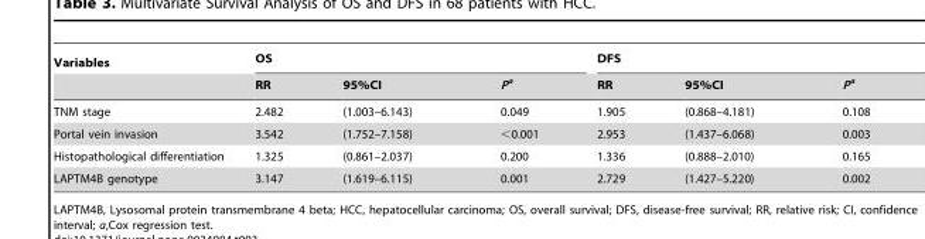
<table><thead><tr><td rowspan="2">Variables</td><td colspan="3">OS</td><td colspan="3">DFS</td></tr><tr><td>RR</td><td>95%CI</td><td>P<sup>a</sup></td><td>RR</td><td>95%CI</td><td>P<sup>a</sup></td></tr></thead><tbody><tr><td>TNM stage</td><td>2.482</td><td>(1.003–6.143)</td><td>0.049</td><td>1.905</td><td>(0.868–4.181)</td><td>0.108</td></tr><tr><td>Portal vein invasion</td><td>3.542</td><td>(1.752–7.158)</td><td>&lt;0.001</td><td>2.953</td><td>(1.437–6.068)</td><td>0.003</td></tr><tr><td>Histopathological differentiation</td><td>1.325</td><td>(0.861–2.037)</td><td>0.200</td><td>1.336</td><td>(0.888–2.010)</td><td>0.165</td></tr><tr><td>LAPTM4B genotype</td><td>3.147</td><td>(1.619–6.115)</td><td>0.001</td><td>2.729</td><td>(1.427–5.220)</td><td>0.002</td></tr></tbody></table>